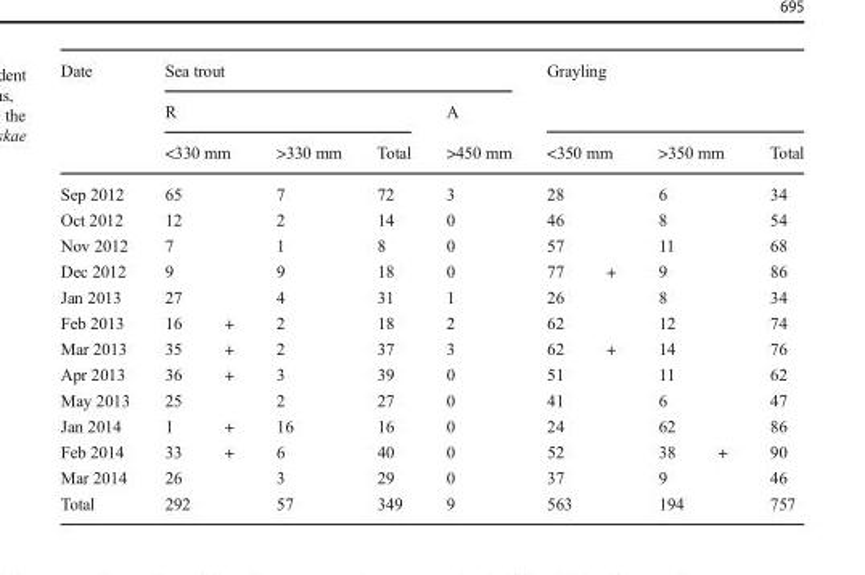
<table><thead><tr><td rowspan="4">Date Sep 2012</td><td colspan="5">Sea trout</td><td rowspan="2" colspan="5">Grayling</td></tr><tr><td colspan="4">R</td><td rowspan="3">A &gt;450 mm 3</td></tr><tr><td colspan="2">&lt;330 mm</td><td rowspan="2">&gt;330 mm 7</td><td rowspan="2">Total 72</td><td colspan="2">&lt;350 mm</td><td colspan="2">&gt;350 mm</td><td rowspan="2">Total 34</td></tr><tr><td>65</td><td></td><td>28</td><td></td><td>6</td><td></td></tr></thead><tbody><tr><td>Oct 2012</td><td>12</td><td></td><td>2</td><td>14</td><td>0</td><td>46</td><td></td><td>8</td><td></td><td>54</td></tr><tr><td>Nov 2012</td><td>7</td><td></td><td>1</td><td>8</td><td>0</td><td>57</td><td></td><td>11</td><td></td><td>68</td></tr><tr><td>Dec 2012</td><td>9</td><td></td><td>9</td><td>18</td><td>0</td><td>77</td><td>+</td><td>9</td><td></td><td>86</td></tr><tr><td>Jan 2013</td><td>27</td><td></td><td>4</td><td>31</td><td>1</td><td>26</td><td></td><td>8</td><td></td><td>34</td></tr><tr><td>Feb 2013</td><td>16</td><td>+</td><td>2</td><td>18</td><td>2</td><td>62</td><td></td><td>12</td><td></td><td>74</td></tr><tr><td>Mar 2013</td><td>35</td><td>+</td><td>2</td><td>37</td><td>3</td><td>62</td><td>+</td><td>14</td><td></td><td>76</td></tr><tr><td>Apr 2013</td><td>36</td><td>+</td><td>3</td><td>39</td><td>0</td><td>51</td><td></td><td>11</td><td></td><td>62</td></tr><tr><td>May 2013</td><td>25</td><td></td><td>2</td><td>27</td><td>0</td><td>41</td><td></td><td>6</td><td></td><td>47</td></tr><tr><td>Jan 2014</td><td>1</td><td>+</td><td>16</td><td>16</td><td>0</td><td>24</td><td></td><td>62</td><td></td><td>86</td></tr><tr><td>Feb 2014</td><td>33</td><td>+</td><td>6</td><td>40</td><td>0</td><td>52</td><td></td><td>38</td><td>+</td><td>90</td></tr><tr><td>Mar 2014</td><td>26</td><td></td><td>3</td><td>29</td><td>0</td><td>37</td><td></td><td>9</td><td></td><td>46</td></tr><tr><td>Total</td><td colspan="2">292</td><td>57</td><td>349</td><td>9</td><td colspan="2">563</td><td colspan="2">194</td><td>757</td></tr></tbody></table>